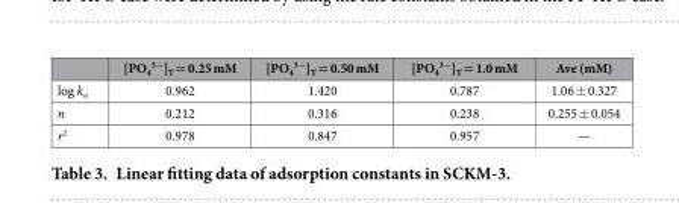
<table><thead><tr><td></td><td>[PO<sub>4</sub> <sup>3−</sup>]<sub>T</sub> = 0.25 mM</td><td>[PO<sub>4</sub> <sup>3−</sup>]<sub>T</sub> = 0.50 mM</td><td>[PO<sub>4</sub> <sup>3−</sup>]<sub>T</sub> = 1.0 mM</td><td>Ave (mM)</td></tr></thead><tbody><tr><td>log k<sub>a</sub></td><td>0.962</td><td>1.420</td><td>0.787</td><td>1.06 ± 0.327</td></tr><tr><td>n</td><td>0.212</td><td>0.316</td><td>0.238</td><td>0.255 ± 0.054</td></tr><tr><td>r<sup>2</sup></td><td>0.978</td><td>0.847</td><td>0.957</td><td>—</td></tr></tbody></table>